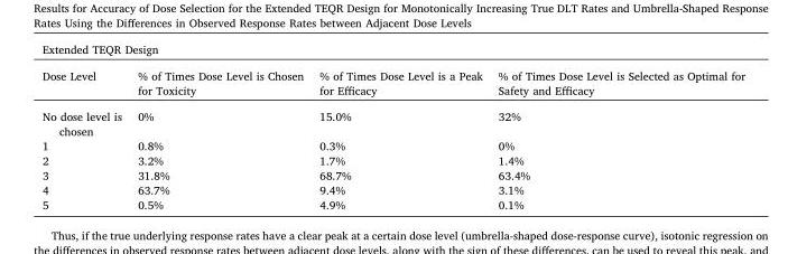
<table><thead><tr><td colspan="4">Extended TEQR Design</td></tr><tr><td>Dose Level</td><td>% of Times Dose Level is Chosen for Toxicity</td><td>% of Times Dose Level is a Peak for Efficacy</td><td>% of Times Dose Level is Selected as Optimal for Safety and Efficacy</td></tr></thead><tbody><tr><td>No dose level is chosen</td><td>0%</td><td>15.0%</td><td>32%</td></tr><tr><td>1</td><td>0.8%</td><td>0.3%</td><td>0%</td></tr><tr><td>2</td><td>3.2%</td><td>1.7%</td><td>1.4%</td></tr><tr><td>3</td><td>31.8%</td><td>68.7%</td><td>63.4%</td></tr><tr><td>4</td><td>63.7%</td><td>9.4%</td><td>3.1%</td></tr><tr><td>5</td><td>0.5%</td><td>4.9%</td><td>0.1%</td></tr></tbody></table>